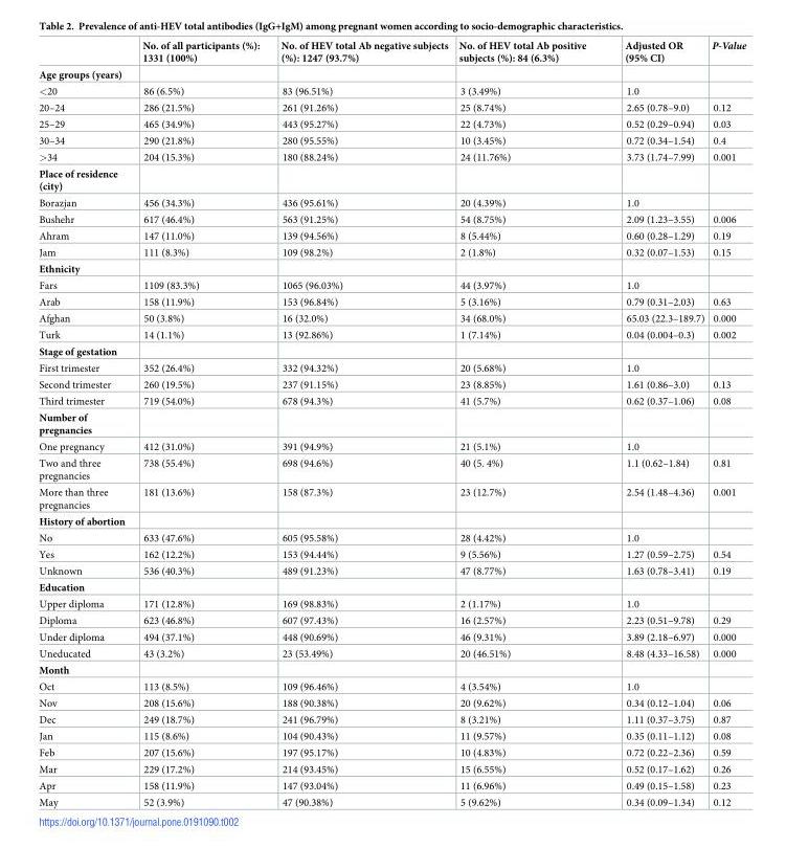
<table><thead><tr><td></td><td>No. of all participants (%): 1331 (100%)</td><td>No. of HEV total Ab negative subjects (%): 1247 (93.7%)</td><td>No. of HEV total Ab positive subjects (%): 84 (6.3%)</td><td>Adjusted OR (95% CI)</td><td>P-Value</td></tr></thead><tbody><tr><td colspan="6">Age groups (years)</td></tr><tr><td>&lt;20</td><td>86 (6.5%)</td><td>83 (96.51%)</td><td>3 (3.49%)</td><td>1.0</td><td></td></tr><tr><td>20–24</td><td>286 (21.5%)</td><td>261 (91.26%)</td><td>25 (8.74%)</td><td>2.65 (0.78–9.0)</td><td>0.12</td></tr><tr><td>25–29</td><td>465 (34.9%)</td><td>443 (95.27%)</td><td>22 (4.73%)</td><td>0.52 (0.29–0.94)</td><td>0.03</td></tr><tr><td>30–34</td><td>290 (21.8%)</td><td>280 (95.55%)</td><td>10 (3.45%)</td><td>0.72 (0.34–1.54)</td><td>0.4</td></tr><tr><td>&gt;34</td><td>204 (15.3%)</td><td>180 (88.24%)</td><td>24 (11.76%)</td><td>3.73 (1.74–7.99)</td><td>0.001</td></tr><tr><td colspan="6">Place of residence (city)</td></tr><tr><td>Borazjan</td><td>456 (34.3%)</td><td>436 (95.61%)</td><td>20 (4.39%)</td><td>1.0</td><td></td></tr><tr><td>Bushehr</td><td>617 (46.4%)</td><td>563 (91.25%)</td><td>54 (8.75%)</td><td>2.09 (1.23–3.55)</td><td>0.006</td></tr><tr><td>Ahram</td><td>147 (11.0%)</td><td>139 (94.56%)</td><td>8 (5.44%)</td><td>0.60 (0.28–1.29)</td><td>0.19</td></tr><tr><td>Jam</td><td>111 (8.3%)</td><td>109 (98.2%)</td><td>2 (1.8%)</td><td>0.32 (0.07–1.53)</td><td>0.15</td></tr><tr><td colspan="6">Ethnicity</td></tr><tr><td>Fars</td><td>1109 (83.3%)</td><td>1065 (96.03%)</td><td>44 (3.97%)</td><td>1.0</td><td></td></tr><tr><td>Arab</td><td>158 (11.9%)</td><td>153 (96.84%)</td><td>5 (3.16%)</td><td>0.79 (0.31–2.03)</td><td>0.63</td></tr><tr><td>Afghan</td><td>50 (3.8%)</td><td>16 (32.0%)</td><td>34 (68.0%)</td><td>65.03 (22.3–189.7)</td><td>0.000</td></tr><tr><td>Turk</td><td>14 (1.1%)</td><td>13 (92.86%)</td><td>1 (7.14%)</td><td>0.04 (0.004–0.3)</td><td>0.002</td></tr><tr><td colspan="6">Stage of gestation</td></tr><tr><td>First trimester</td><td>352 (26.4%)</td><td>332 (94.32%)</td><td>20 (5.68%)</td><td>1.0</td><td></td></tr><tr><td>Second trimester</td><td>260 (19.5%)</td><td>237 (91.15%)</td><td>23 (8.85%)</td><td>1.61 (0.86–3.0)</td><td>0.13</td></tr><tr><td>Third trimester</td><td>719 (54.0%)</td><td>678 (94.3%)</td><td>41 (5.7%)</td><td>0.62 (0.37–1.06)</td><td>0.08</td></tr><tr><td colspan="6">Number of pregnancies</td></tr><tr><td>One pregnancy</td><td>412 (31.0%)</td><td>391 (94.9%)</td><td>21 (5.1%)</td><td>1.0</td><td></td></tr><tr><td>Two and three pregnancies</td><td>738 (55.4%)</td><td>698 (94.6%)</td><td>40 (5. 4%)</td><td>1.1 (0.62–1.84)</td><td>0.81</td></tr><tr><td>More than three pregnancies</td><td>181 (13.6%)</td><td>158 (87.3%)</td><td>23 (12.7%)</td><td>2.54 (1.48–4.36)</td><td>0.001</td></tr><tr><td colspan="6">History of abortion</td></tr><tr><td>No</td><td>633 (47.6%)</td><td>605 (95.58%)</td><td>28 (4.42%)</td><td>1.0</td><td></td></tr><tr><td>Yes</td><td>162 (12.2%)</td><td>153 (94.44%)</td><td>9 (5.56%)</td><td>1.27 (0.59–2.75)</td><td>0.54</td></tr><tr><td>Unknown</td><td>536 (40.3%)</td><td>489 (91.23%)</td><td>47 (8.77%)</td><td>1.63 (0.78–3.41)</td><td>0.19</td></tr><tr><td colspan="6">Education</td></tr><tr><td>Upper diploma</td><td>171 (12.8%)</td><td>169 (98.83%)</td><td>2 (1.17%)</td><td>1.0</td><td></td></tr><tr><td>Diploma</td><td>623 (46.8%)</td><td>607 (97.43%)</td><td>16 (2.57%)</td><td>2.23 (0.51–9.78)</td><td>0.29</td></tr><tr><td>Under diploma</td><td>494 (37.1%)</td><td>448 (90.69%)</td><td>46 (9.31%)</td><td>3.89 (2.18–6.97)</td><td>0.000</td></tr><tr><td>Uneducated</td><td>43 (3.2%)</td><td>23 (53.49%)</td><td>20 (46.51%)</td><td>8.48 (4.33–16.58)</td><td>0.000</td></tr><tr><td colspan="6">Month</td></tr><tr><td>Oct</td><td>113 (8.5%)</td><td>109 (96.46%)</td><td>4 (3.54%)</td><td>1.0</td><td></td></tr><tr><td>Nov</td><td>208 (15.6%)</td><td>188 (90.38%)</td><td>20 (9.62%)</td><td>0.34 (0.12–1.04)</td><td>0.06</td></tr><tr><td>Dec</td><td>249 (18.7%)</td><td>241 (96.79%)</td><td>8 (3.21%)</td><td>1.11 (0.37–3.75)</td><td>0.87</td></tr><tr><td>Jan</td><td>115 (8.6%)</td><td>104 (90.43%)</td><td>11 (9.57%)</td><td>0.35 (0.11–1.12)</td><td>0.08</td></tr><tr><td>Feb</td><td>207 (15.6%)</td><td>197 (95.17%)</td><td>10 (4.83%)</td><td>0.72 (0.22–2.36)</td><td>0.59</td></tr><tr><td>Mar</td><td>229 (17.2%)</td><td>214 (93.45%)</td><td>15 (6.55%)</td><td>0.52 (0.17–1.62)</td><td>0.26</td></tr><tr><td>Apr</td><td>158 (11.9%)</td><td>147 (93.04%)</td><td>11 (6.96%)</td><td>0.49 (0.15–1.58)</td><td>0.23</td></tr><tr><td>May</td><td>52 (3.9%)</td><td>47 (90.38%)</td><td>5 (9.62%)</td><td>0.34 (0.09–1.34)</td><td>0.12</td></tr></tbody></table>